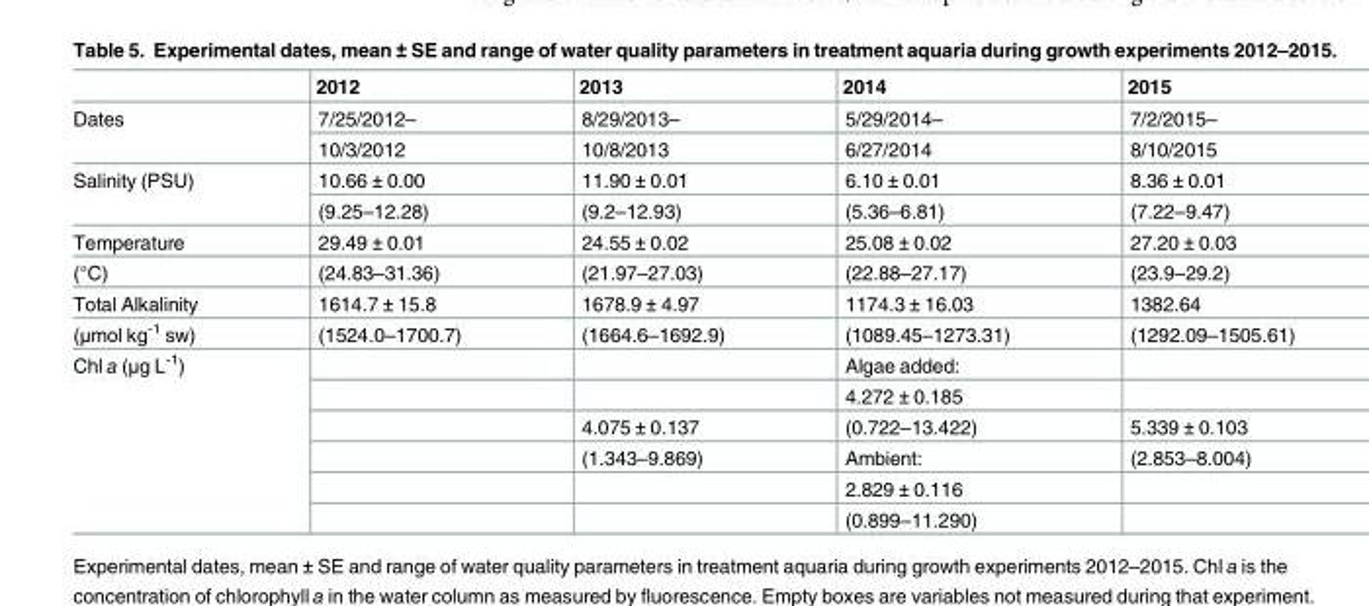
<table><thead><tr><td></td><td>2012</td><td>2013</td><td>2014</td><td>2015</td></tr></thead><tbody><tr><td rowspan="2">Dates</td><td>7/25/2012–</td><td>8/29/2013–</td><td>5/29/2014–</td><td>7/2/2015–</td></tr><tr><td>10/3/2012</td><td>10/8/2013</td><td>6/27/2014</td><td>8/10/2015</td></tr><tr><td rowspan="2">Salinity (PSU)</td><td>10.66 ± 0.00</td><td>11.90 ± 0.01</td><td>6.10 ± 0.01</td><td>8.36 ± 0.01</td></tr><tr><td>(9.25–12.28)</td><td>(9.2–12.93)</td><td>(5.36–6.81)</td><td>(7.22–9.47)</td></tr><tr><td>Temperature</td><td>29.49 ± 0.01</td><td>24.55 ± 0.02</td><td>25.08 ± 0.02</td><td>27.20 ± 0.03</td></tr><tr><td>(°C)</td><td>(24.83–31.36)</td><td>(21.97–27.03)</td><td>(22.88–27.17)</td><td>(23.9–29.2)</td></tr><tr><td>Total Alkalinity</td><td>1614.7 ± 15.8</td><td>1678.9 ± 4.97</td><td>1174.3 ± 16.03</td><td>1382.64</td></tr><tr><td>(μmol kg<sup>-1</sup> sw)</td><td>(1524.0–1700.7)</td><td>(1664.6–1692.9)</td><td>(1089.45–1273.31)</td><td>(1292.09–1505.61)</td></tr><tr><td rowspan="6">Chl a (μg L<sup>-1</sup>)</td><td></td><td></td><td>Algae added:</td><td></td></tr><tr><td></td><td></td><td>4.272 ± 0.185</td><td></td></tr><tr><td></td><td>4.075 ± 0.137</td><td>(0.722–13.422)</td><td>5.339 ± 0.103</td></tr><tr><td></td><td>(1.343–9.869)</td><td>Ambient:</td><td>(2.853–8.004)</td></tr><tr><td></td><td></td><td>2.829 ± 0.116</td><td></td></tr><tr><td></td><td></td><td>(0.899–11.290)</td><td></td></tr></tbody></table>